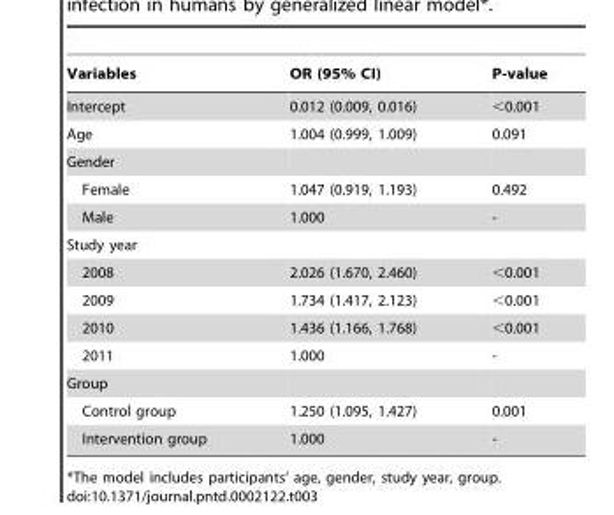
<table><thead><tr><td>Variables</td><td>OR (95% CI)</td><td>P-value</td></tr></thead><tbody><tr><td>Intercept</td><td>0.012 (0.009, 0.016)</td><td>&lt;0.001</td></tr><tr><td>Age</td><td>1.004 (0.999, 1.009)</td><td>0.091</td></tr><tr><td colspan="3">Gender</td></tr><tr><td>Female</td><td>1.047 (0.919, 1.193)</td><td>0.492</td></tr><tr><td>Male</td><td>1.000</td><td>-</td></tr><tr><td colspan="3">Study year</td></tr><tr><td>2008</td><td>2.026 (1.670, 2.460)</td><td>&lt;0.001</td></tr><tr><td>2009</td><td>1.734 (1.417, 2.123)</td><td>&lt;0.001</td></tr><tr><td>2010</td><td>1.436 (1.166, 1.768)</td><td>&lt;0.001</td></tr><tr><td>2011</td><td>1.000</td><td>-</td></tr><tr><td colspan="3">Group</td></tr><tr><td>Control group</td><td>1.250 (1.095, 1.427)</td><td>0.001</td></tr><tr><td>Intervention group</td><td>1.000</td><td>-</td></tr></tbody></table>